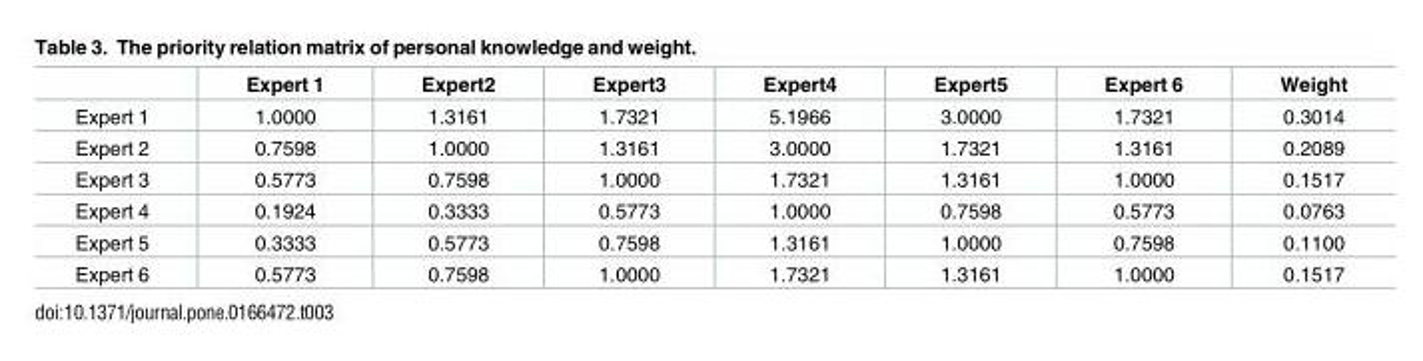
<table><thead><tr><td></td><td>Expert 1</td><td>Expert2</td><td>Expert3</td><td>Expert4</td><td>Expert5</td><td>Expert 6</td><td>Weight</td></tr></thead><tbody><tr><td>Expert 1</td><td>1.0000</td><td>1.3161</td><td>1.7321</td><td>5.1966</td><td>3.0000</td><td>1.7321</td><td>0.3014</td></tr><tr><td>Expert 2</td><td>0.7598</td><td>1.0000</td><td>1.3161</td><td>3.0000</td><td>1.7321</td><td>1.3161</td><td>0.2089</td></tr><tr><td>Expert 3</td><td>0.5773</td><td>0.7598</td><td>1.0000</td><td>1.7321</td><td>1.3161</td><td>1.0000</td><td>0.1517</td></tr><tr><td>Expert 4</td><td>0.1924</td><td>0.3333</td><td>0.5773</td><td>1.0000</td><td>0.7598</td><td>0.5773</td><td>0.0763</td></tr><tr><td>Expert 5</td><td>0.3333</td><td>0.5773</td><td>0.7598</td><td>1.3161</td><td>1.0000</td><td>0.7598</td><td>0.1100</td></tr><tr><td>Expert 6</td><td>0.5773</td><td>0.7598</td><td>1.0000</td><td>1.7321</td><td>1.3161</td><td>1.0000</td><td>0.1517</td></tr></tbody></table>